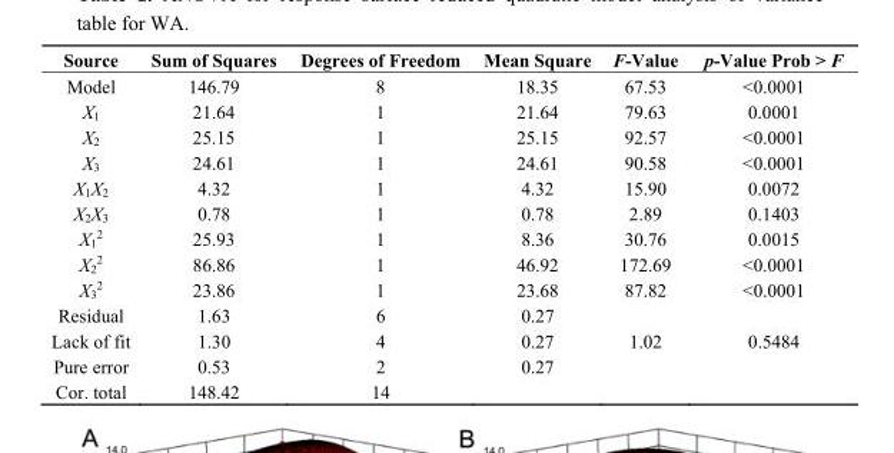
<table><thead><tr><td>Source</td><td>Sum of Squares</td><td>Degrees of Freedom</td><td>Mean Square</td><td>F-Value</td><td>p-Value Prob &gt; F</td></tr></thead><tbody><tr><td>Model</td><td>146.79</td><td>8</td><td>18.35</td><td>67.53</td><td>&lt;0.0001</td></tr><tr><td>X<sub>1</sub></td><td>21.64</td><td>1</td><td>21.64</td><td>79.63</td><td>0.0001</td></tr><tr><td>X<sub>2</sub></td><td>25.15</td><td>1</td><td>25.15</td><td>92.57</td><td>&lt;0.0001</td></tr><tr><td>X<sub>3</sub></td><td>24.61</td><td>1</td><td>24.61</td><td>90.58</td><td>&lt;0.0001</td></tr><tr><td>X<sub>1</sub>X<sub>2</sub></td><td>4.32</td><td>1</td><td>4.32</td><td>15.90</td><td>0.0072</td></tr><tr><td>X<sub>2</sub>X<sub>3</sub></td><td>0.78</td><td>1</td><td>0.78</td><td>2.89</td><td>0.1403</td></tr><tr><td>X<sub>1</sub><sup>2</sup></td><td>25.93</td><td>1</td><td>8.36</td><td>30.76</td><td>0.0015</td></tr><tr><td>X<sub>2</sub><sup>2</sup></td><td>86.86</td><td>1</td><td>46.92</td><td>172.69</td><td>&lt;0.0001</td></tr><tr><td>X<sub>3</sub><sup>2</sup></td><td>23.86</td><td>1</td><td>23.68</td><td>87.82</td><td>&lt;0.0001</td></tr><tr><td>Residual</td><td>1.63</td><td>6</td><td>0.27</td><td></td><td></td></tr><tr><td>Lack of fit</td><td>1.30</td><td>4</td><td>0.27</td><td>1.02</td><td>0.5484</td></tr><tr><td>Pure error</td><td>0.53</td><td>2</td><td>0.27</td><td></td><td></td></tr><tr><td>Cor. total</td><td>148.42</td><td>14</td><td></td><td></td><td></td></tr></tbody></table>